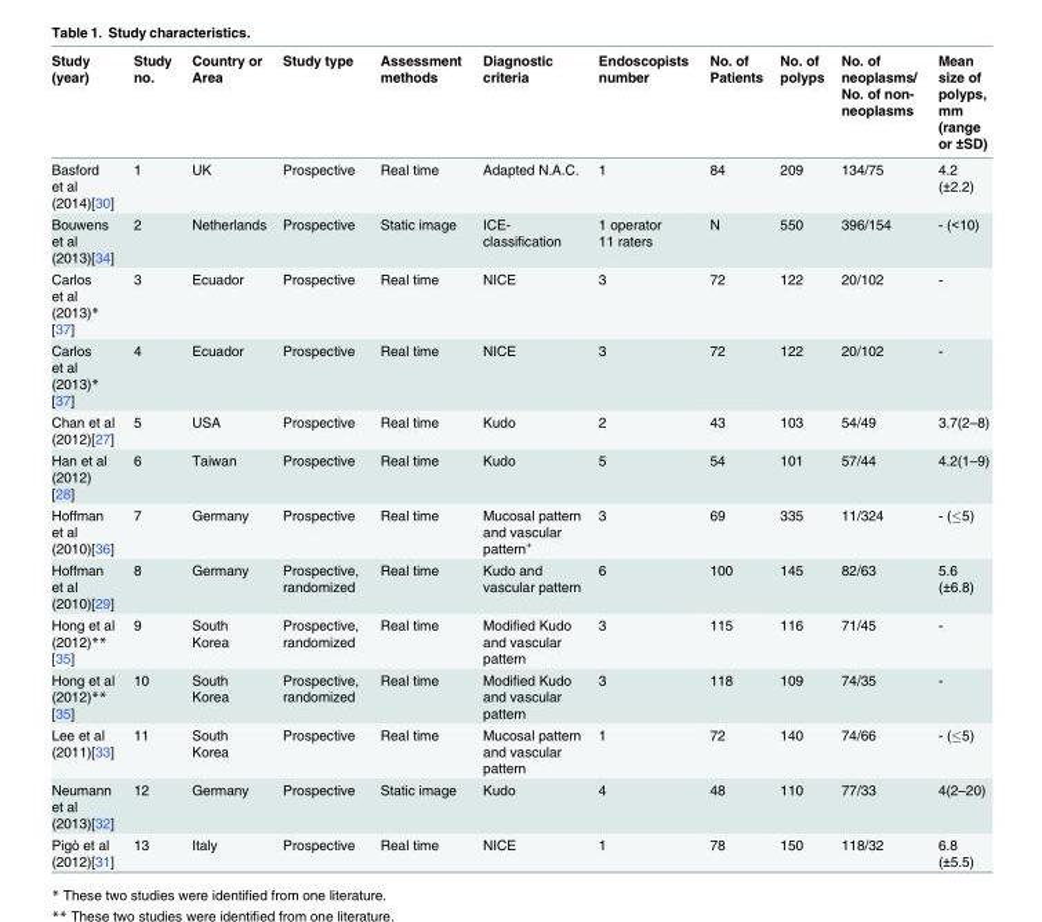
<table><thead><tr><td>Study (year)</td><td>Study no.</td><td>Country or Area</td><td>Study type</td><td>Assessment methods</td><td>Diagnostic criteria</td><td>Endoscopists number</td><td>No. of Patients</td><td>No. of polyps</td><td>No. of neoplasms/ No. of non- neoplasms</td><td>Mean size of polyps, mm (range or ±SD)</td></tr></thead><tbody><tr><td>Basford et al (2014)[30]</td><td>1</td><td>UK</td><td>Prospective</td><td>Real time</td><td>Adapted N.A.C.</td><td>1</td><td>84</td><td>209</td><td>134/75</td><td>4.2 (±2.2)</td></tr><tr><td>Bouwens et al (2013)[34]</td><td>2</td><td>Netherlands</td><td>Prospective</td><td>Static image</td><td>ICE- classification</td><td>1 operator 11 raters</td><td>N</td><td>550</td><td>396/154</td><td>- (&lt;10)</td></tr><tr><td>Carlos et al (2013)* [37]</td><td>3</td><td>Ecuador</td><td>Prospective</td><td>Real time</td><td>NICE</td><td>3</td><td>72</td><td>122</td><td>20/102</td><td>-</td></tr><tr><td>Carlos et al (2013)* [37]</td><td>4</td><td>Ecuador</td><td>Prospective</td><td>Real time</td><td>NICE</td><td>3</td><td>72</td><td>122</td><td>20/102</td><td>-</td></tr><tr><td>Chan et al (2012)[27]</td><td>5</td><td>USA</td><td>Prospective</td><td>Real time</td><td>Kudo</td><td>2</td><td>43</td><td>103</td><td>54/49</td><td>3.7(2–8)</td></tr><tr><td>Han et al (2012) [28]</td><td>6</td><td>Taiwan</td><td>Prospective</td><td>Real time</td><td>Kudo</td><td>5</td><td>54</td><td>101</td><td>57/44</td><td>4.2(1–9)</td></tr><tr><td>Hoffman et al (2010)[36]</td><td>7</td><td>Germany</td><td>Prospective</td><td>Real time</td><td>Mucosal pattern and vascular pattern<sup>+</sup></td><td>3</td><td>69</td><td>335</td><td>11/324</td><td>- (≤5)</td></tr><tr><td>Hoffman et al (2010)[29]</td><td>8</td><td>Germany</td><td>Prospective, randomized</td><td>Real time</td><td>Kudo and vascular pattern</td><td>6</td><td>100</td><td>145</td><td>82/63</td><td>5.6 (±6.8)</td></tr><tr><td>Hong et al (2012)** [35]</td><td>9</td><td>South Korea</td><td>Prospective, randomized</td><td>Real time</td><td>Modified Kudo and vascular pattern</td><td>3</td><td>115</td><td>116</td><td>71/45</td><td>-</td></tr><tr><td>Hong et al (2012)** [35]</td><td>10</td><td>South Korea</td><td>Prospective, randomized</td><td>Real time</td><td>Modified Kudo and vascular pattern</td><td>3</td><td>118</td><td>109</td><td>74/35</td><td>-</td></tr><tr><td>Lee et al (2011)[33]</td><td>11</td><td>South Korea</td><td>Prospective</td><td>Real time</td><td>Mucosal pattern and vascular pattern</td><td>1</td><td>72</td><td>140</td><td>74/66</td><td>- (≤5)</td></tr><tr><td>Neumann et al (2013)[32]</td><td>12</td><td>Germany</td><td>Prospective</td><td>Static image</td><td>Kudo</td><td>4</td><td>48</td><td>110</td><td>77/33</td><td>4(2–20)</td></tr><tr><td>Pigò et al (2012)[31]</td><td>13</td><td>Italy</td><td>Prospective</td><td>Real time</td><td>NICE</td><td>1</td><td>78</td><td>150</td><td>118/32</td><td>6.8 (±5.5)</td></tr></tbody></table>